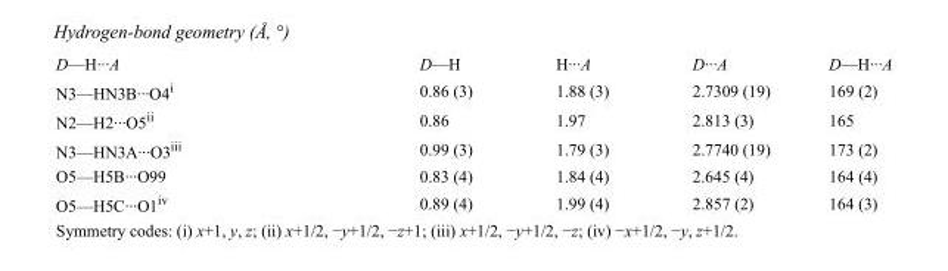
<table><tbody><tr><td>D—H···A</td><td>D—H</td><td>H···A</td><td>D···A</td><td>D—H···A</td></tr><tr><td>N3—HN3B···O4<sup>i</sup></td><td>0.86 (3)</td><td>1.88 (3)</td><td>2.7309 (19)</td><td>169 (2)</td></tr><tr><td>N2—H2···O5<sup>ii</sup></td><td>0.86</td><td>1.97</td><td>2.813 (3)</td><td>165</td></tr><tr><td>N3—HN3A···O3<sup>iii</sup></td><td>0.99 (3)</td><td>1.79 (3)</td><td>2.7740 (19)</td><td>173 (2)</td></tr><tr><td>O5—H5B···O99</td><td>0.83 (4)</td><td>1.84 (4)</td><td>2.645 (4)</td><td>164 (4)</td></tr><tr><td>O5—H5C···O1<sup>iv</sup></td><td>0.89 (4)</td><td>1.99 (4)</td><td>2.857 (2)</td><td>164 (3)</td></tr></tbody></table>